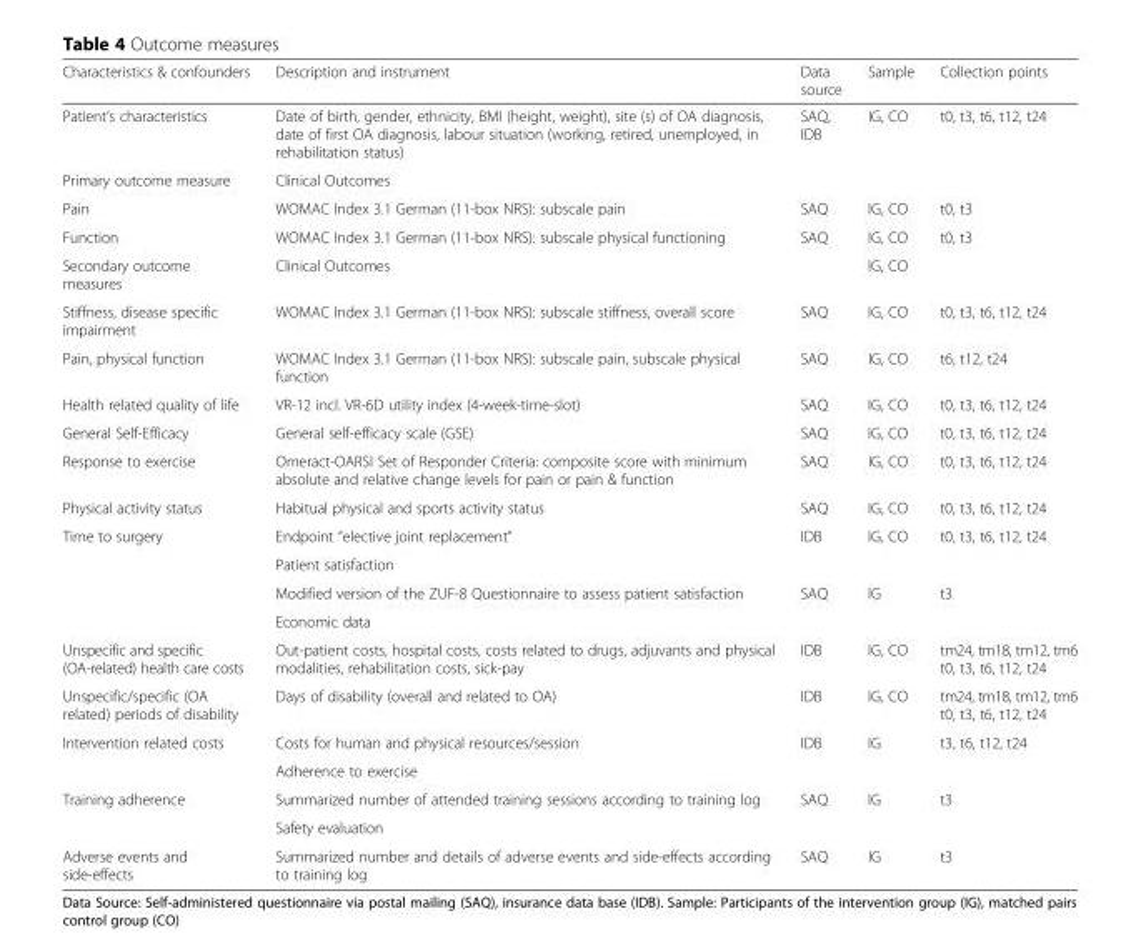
<table><thead><tr><td>Characteristics &amp; confounders</td><td>Description and instrument</td><td>Data source</td><td>Sample</td><td>Collection points</td></tr></thead><tbody><tr><td>Patient’s characteristics</td><td>Date of birth, gender, ethnicity, BMI (height, weight), site (s) of OA diagnosis, date of first OA diagnosis, labour situation (working, retired, unemployed, in rehabilitation status)</td><td>SAQ, IDB</td><td>IG, CO</td><td>t0, t3, t6, t12, t24</td></tr><tr><td>Primary outcome measure</td><td colspan="4">Clinical Outcomes</td></tr><tr><td>Pain</td><td>WOMAC Index 3.1 German (11-box NRS): subscale pain</td><td>SAQ</td><td>IG, CO</td><td>t0, t3</td></tr><tr><td>Function</td><td>WOMAC Index 3.1 German (11-box NRS): subscale physical functioning</td><td>SAQ</td><td>IG, CO</td><td>t0, t3</td></tr><tr><td>Secondary outcome measures</td><td>Clinical Outcomes</td><td></td><td>IG, CO</td><td></td></tr><tr><td>Stiffness, disease specific impairment</td><td>WOMAC Index 3.1 German (11-box NRS): subscale stiffness, overall score</td><td>SAQ</td><td>IG, CO</td><td>t0, t3, t6, t12, t24</td></tr><tr><td>Pain, physical function</td><td>WOMAC Index 3.1 German (11-box NRS): subscale pain, subscale physical function</td><td>SAQ</td><td>IG, CO</td><td>t6, t12, t24</td></tr><tr><td>Health related quality of life</td><td>VR-12 incl. VR-6D utility index (4-week-time-slot)</td><td>SAQ</td><td>IG, CO</td><td>t0, t3, t6, t12, t24</td></tr><tr><td>General Self-Efficacy</td><td>General self-efficacy scale (GSE)</td><td>SAQ</td><td>IG, CO</td><td>t0, t3, t6, t12, t24</td></tr><tr><td>Response to exercise</td><td>Omeract-OARSI Set of Responder Criteria: composite score with minimum absolute and relative change levels for pain or pain &amp; function</td><td>SAQ</td><td>IG, CO</td><td>t0, t3, t6, t12, t24</td></tr><tr><td>Physical activity status</td><td>Habitual physical and sports activity status</td><td>SAQ</td><td>IG, CO</td><td>t0, t3, t6, t12, t24</td></tr><tr><td rowspan="4">Time to surgery</td><td>Endpoint “elective joint replacement”</td><td>IDB</td><td>IG, CO</td><td>t0, t3, t6, t12, t24</td></tr><tr><td colspan="4">Patient satisfaction</td></tr><tr><td>Modified version of the ZUF-8 Questionnaire to assess patient satisfaction</td><td>SAQ</td><td>IG</td><td>t3</td></tr><tr><td colspan="4">Economic data</td></tr><tr><td>Unspecific and specific (OA-related) health care costs</td><td>Out-patient costs, hospital costs, costs related to drugs, adjuvants and physical modalities, rehabilitation costs, sick-pay</td><td>IDB</td><td>IG, CO</td><td>tm24, tm18, tm12, tm6 t0, t3, t6, t12, t24</td></tr><tr><td>Unspecific/specific (OA related) periods of disability</td><td>Days of disability (overall and related to OA)</td><td>IDB</td><td>IG, CO</td><td>tm24, tm18, tm12, tm6 t0, t3, t6, t12, t24</td></tr><tr><td rowspan="2">Intervention related costs</td><td>Costs for human and physical resources/session</td><td>IDB</td><td>IG</td><td>t3, t6, t12, t24</td></tr><tr><td colspan="4">Adherence to exercise</td></tr><tr><td rowspan="2">Training adherence</td><td>Summarized number of attended training sessions according to training log</td><td>SAQ</td><td>IG</td><td>t3</td></tr><tr><td colspan="4">Safety evaluation</td></tr><tr><td>Adverse events and side-effects</td><td>Summarized number and details of adverse events and side-effects according to training log</td><td>SAQ</td><td>IG</td><td>t3</td></tr></tbody></table>